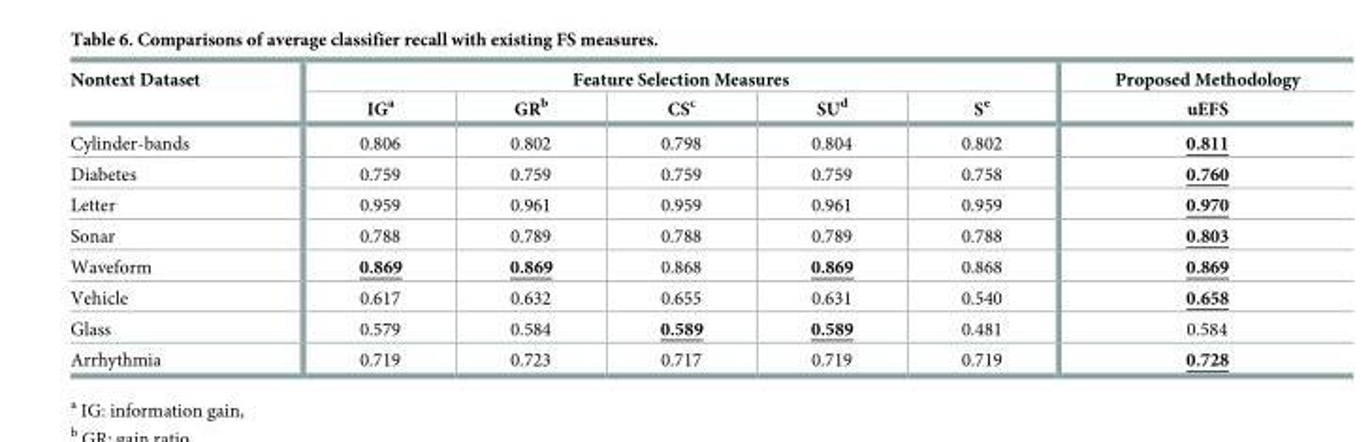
<table><thead><tr><td rowspan="2">Nontext Dataset</td><td colspan="5">Feature Selection Measures</td><td rowspan="2">Proposed Methodology uEFS</td></tr><tr><td>IG<sup>a</sup></td><td>GR<sup>b</sup></td><td>CS<sup>c</sup></td><td>SU<sup>d</sup></td><td>S<sup>e</sup></td></tr></thead><tbody><tr><td>Cylinder-bands</td><td>0.806</td><td>0.802</td><td>0.798</td><td>0.804</td><td>0.802</td><td>0.811</td></tr><tr><td>Diabetes</td><td>0.759</td><td>0.759</td><td>0.759</td><td>0.759</td><td>0.758</td><td>0.760</td></tr><tr><td>Letter</td><td>0.959</td><td>0.961</td><td>0.959</td><td>0.961</td><td>0.959</td><td>0.970</td></tr><tr><td>Sonar</td><td>0.788</td><td>0.789</td><td>0.788</td><td>0.789</td><td>0.788</td><td>0.803</td></tr><tr><td>Waveform</td><td>0.869</td><td>0.869</td><td>0.868</td><td>0.869</td><td>0.868</td><td>0.869</td></tr><tr><td>Vehicle</td><td>0.617</td><td>0.632</td><td>0.655</td><td>0.631</td><td>0.540</td><td>0.658</td></tr><tr><td>Glass</td><td>0.579</td><td>0.584</td><td>0.589</td><td>0.589</td><td>0.481</td><td>0.584</td></tr><tr><td>Arrhythmia</td><td>0.719</td><td>0.723</td><td>0.717</td><td>0.719</td><td>0.719</td><td>0.728</td></tr></tbody></table>